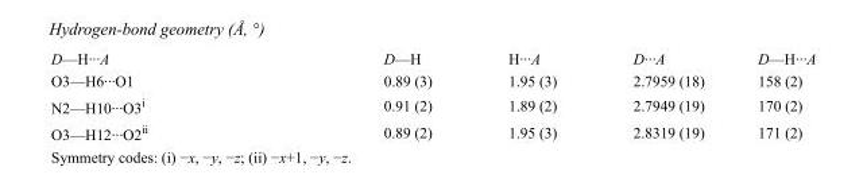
<table><tbody><tr><td>D—H···A</td><td>D—H</td><td>H···A</td><td>D···A</td><td>D—H···A</td></tr><tr><td>O3—H6···O1</td><td>0.89 (3)</td><td>1.95 (3)</td><td>2.7959 (18)</td><td>158 (2)</td></tr><tr><td>N2—H10···O3<sup>i</sup></td><td>0.91 (2)</td><td>1.89 (2)</td><td>2.7949 (19)</td><td>170 (2)</td></tr><tr><td>O3—H12···O2<sup>ii</sup></td><td>0.89 (2)</td><td>1.95 (3)</td><td>2.8319 (19)</td><td>171 (2)</td></tr></tbody></table>